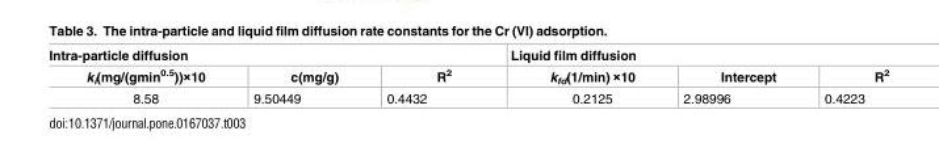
<table><thead><tr><td colspan="3">Intra-particle diffusion</td><td colspan="3">Liquid film diffusion</td></tr><tr><td>k<sub>i</sub>(mg/(gmin<sup>0.5</sup>))×10</td><td>c(mg/g)</td><td>R<sup>2</sup></td><td>k<sub>fd</sub>(1/min) ×10</td><td>Intercept</td><td>R<sup>2</sup></td></tr></thead><tbody><tr><td>8.58</td><td>9.50449</td><td>0.4432</td><td>0.2125</td><td>2.98996</td><td>0.4223</td></tr></tbody></table>